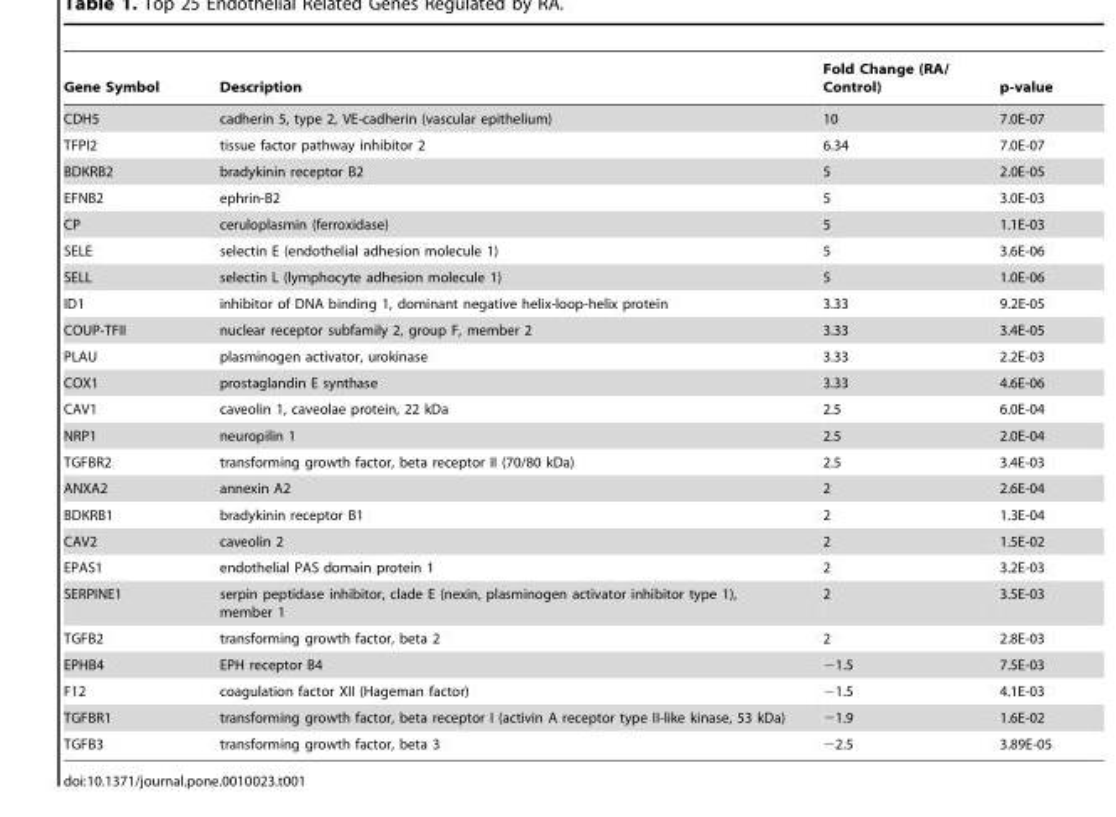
<table><thead><tr><td>Gene Symbol</td><td>Description</td><td>Fold Change (RA/ Control)</td><td>p-value</td></tr></thead><tbody><tr><td>CDH5</td><td>cadherin 5, type 2, VE-cadherin (vascular epithelium)</td><td>10</td><td>7.0E-07</td></tr><tr><td>TFPI2</td><td>tissue factor pathway inhibitor 2</td><td>6.34</td><td>7.0E-07</td></tr><tr><td>BDKRB2</td><td>bradykinin receptor B2</td><td>5</td><td>2.0E-05</td></tr><tr><td>EFNB2</td><td>ephrin-B2</td><td>5</td><td>3.0E-03</td></tr><tr><td>CP</td><td>ceruloplasmin (ferroxidase)</td><td>5</td><td>1.1E-03</td></tr><tr><td>SELE</td><td>selectin E (endothelial adhesion molecule 1)</td><td>5</td><td>3.6E-06</td></tr><tr><td>SELL</td><td>selectin L (lymphocyte adhesion molecule 1)</td><td>5</td><td>1.0E-06</td></tr><tr><td>ID1</td><td>inhibitor of DNA binding 1, dominant negative helix-loop-helix protein</td><td>3.33</td><td>9.2E-05</td></tr><tr><td>COUP-TFII</td><td>nuclear receptor subfamily 2, group F, member 2</td><td>3.33</td><td>3.4E-05</td></tr><tr><td>PLAU</td><td>plasminogen activator, urokinase</td><td>3.33</td><td>2.2E-03</td></tr><tr><td>COX1</td><td>prostaglandin E synthase</td><td>3.33</td><td>4.6E-06</td></tr><tr><td>CAV1</td><td>caveolin 1, caveolae protein, 22 kDa</td><td>2.5</td><td>6.0E-04</td></tr><tr><td>NRP1</td><td>neuropilin 1</td><td>2.5</td><td>2.0E-04</td></tr><tr><td>TGFBR2</td><td>transforming growth factor, beta receptor II (70/80 kDa)</td><td>2.5</td><td>3.4E-03</td></tr><tr><td>ANXA2</td><td>annexin A2</td><td>2</td><td>2.6E-04</td></tr><tr><td>BDKRB1</td><td>bradykinin receptor B1</td><td>2</td><td>1.3E-04</td></tr><tr><td>CAV2</td><td>caveolin 2</td><td>2</td><td>1.5E-02</td></tr><tr><td>EPAS1</td><td>endothelial PAS domain protein 1</td><td>2</td><td>3.2E-03</td></tr><tr><td>SERPINE1</td><td>serpin peptidase inhibitor, clade E (nexin, plasminogen activator inhibitor type 1), member 1</td><td>2</td><td>3.5E-03</td></tr><tr><td>TGFB2</td><td>transforming growth factor, beta 2</td><td>2</td><td>2.8E-03</td></tr><tr><td>EPHB4</td><td>EPH receptor B4</td><td>−1.5</td><td>7.5E-03</td></tr><tr><td>F12</td><td>coagulation factor XII (Hageman factor)</td><td>−1.5</td><td>4.1E-03</td></tr><tr><td>TGFBR1</td><td>transforming growth factor, beta receptor I (activin A receptor type II-like kinase, 53 kDa)</td><td>−1.9</td><td>1.6E-02</td></tr><tr><td>TGFB3</td><td>transforming growth factor, beta 3</td><td>−2.5</td><td>3.89E-05</td></tr></tbody></table>